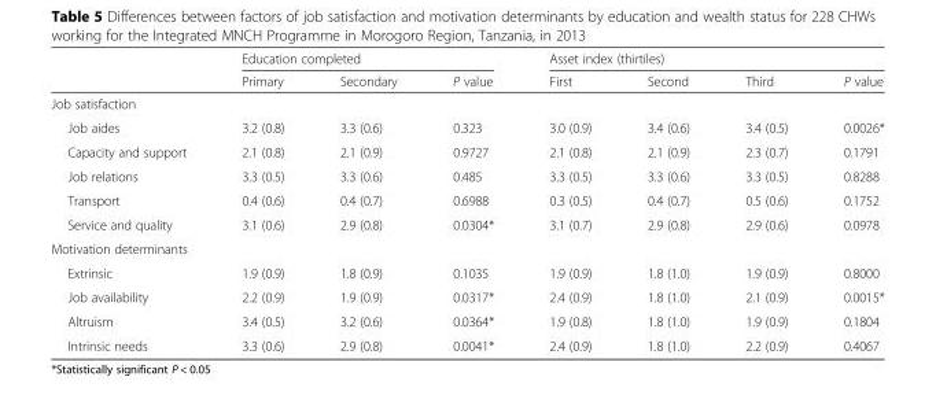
<table><thead><tr><td rowspan="2"></td><td colspan="3">Education completed</td><td colspan="4">Asset index (thirtiles)</td></tr><tr><td>Primary</td><td>Secondary</td><td>P value</td><td>First</td><td>Second</td><td>Third</td><td>P value</td></tr></thead><tbody><tr><td colspan="8">Job satisfaction</td></tr><tr><td>Job aides</td><td>3.2 (0.8)</td><td>3.3 (0.6)</td><td>0.323</td><td>3.0 (0.9)</td><td>3.4 (0.6)</td><td>3.4 (0.5)</td><td>0.0026*</td></tr><tr><td>Capacity and support</td><td>2.1 (0.8)</td><td>2.1 (0.9)</td><td>0.9727</td><td>2.1 (0.8)</td><td>2.1 (0.9)</td><td>2.3 (0.7)</td><td>0.1791</td></tr><tr><td>Job relations</td><td>3.3 (0.5)</td><td>3.3 (0.6)</td><td>0.485</td><td>3.3 (0.5)</td><td>3.3 (0.6)</td><td>3.3 (0.5)</td><td>0.8288</td></tr><tr><td>Transport</td><td>0.4 (0.6)</td><td>0.4 (0.7)</td><td>0.6988</td><td>0.3 (0.5)</td><td>0.4 (0.7)</td><td>0.5 (0.6)</td><td>0.1752</td></tr><tr><td>Service and quality</td><td>3.1 (0.6)</td><td>2.9 (0.8)</td><td>0.0304*</td><td>3.1 (0.7)</td><td>2.9 (0.8)</td><td>2.9 (0.6)</td><td>0.0978</td></tr><tr><td colspan="8">Motivation determinants</td></tr><tr><td>Extrinsic</td><td>1.9 (0.9)</td><td>1.8 (0.9)</td><td>0.1035</td><td>1.9 (0.9)</td><td>1.8 (1.0)</td><td>1.9 (0.9)</td><td>0.8000</td></tr><tr><td>Job availability</td><td>2.2 (0.9)</td><td>1.9 (0.9)</td><td>0.0317*</td><td>2.4 (0.9)</td><td>1.8 (1.0)</td><td>2.1 (0.9)</td><td>0.0015*</td></tr><tr><td>Altruism</td><td>3.4 (0.5)</td><td>3.2 (0.6)</td><td>0.0364*</td><td>1.9 (0.8)</td><td>1.8 (1.0)</td><td>1.9 (0.9)</td><td>0.1804</td></tr><tr><td>Intrinsic needs</td><td>3.3 (0.6)</td><td>2.9 (0.8)</td><td>0.0041*</td><td>2.4 (0.9)</td><td>1.8 (1.0)</td><td>2.2 (0.9)</td><td>0.4067</td></tr></tbody></table>